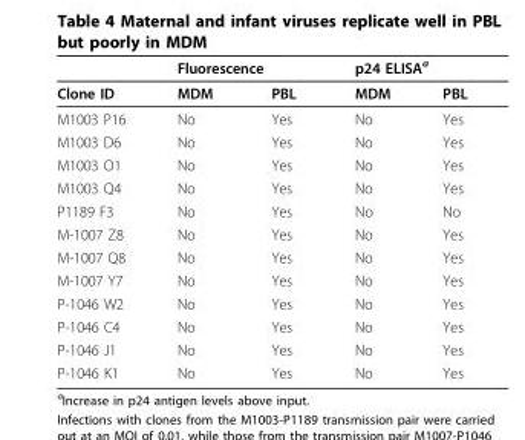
<table><thead><tr><td rowspan="2">Clone ID</td><td colspan="2">Fluorescence</td><td colspan="2">p24 ELISA<sup>a</sup></td></tr><tr><td>MDM</td><td>PBL</td><td>MDM</td><td>PBL</td></tr></thead><tbody><tr><td>M1003 P16</td><td>No</td><td>Yes</td><td>No</td><td>Yes</td></tr><tr><td>M1003 D6</td><td>No</td><td>Yes</td><td>No</td><td>Yes</td></tr><tr><td>M1003 O1</td><td>No</td><td>Yes</td><td>No</td><td>Yes</td></tr><tr><td>M1003 Q4</td><td>No</td><td>Yes</td><td>No</td><td>Yes</td></tr><tr><td>P1189 F3</td><td>No</td><td>Yes</td><td>No</td><td>No</td></tr><tr><td>M-1007 Z8</td><td>No</td><td>Yes</td><td>No</td><td>Yes</td></tr><tr><td>M-1007 Q8</td><td>No</td><td>Yes</td><td>No</td><td>Yes</td></tr><tr><td>M-1007 Y7</td><td>No</td><td>Yes</td><td>No</td><td>Yes</td></tr><tr><td>P-1046 W2</td><td>No</td><td>Yes</td><td>No</td><td>Yes</td></tr><tr><td>P-1046 C4</td><td>No</td><td>Yes</td><td>No</td><td>Yes</td></tr><tr><td>P-1046 J1</td><td>No</td><td>Yes</td><td>No</td><td>Yes</td></tr><tr><td>P-1046 K1</td><td>No</td><td>Yes</td><td>No</td><td>Yes</td></tr></tbody></table>